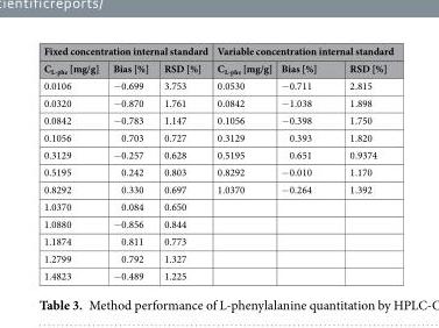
<table><thead><tr><td colspan="3">Fixed concentration internal standard</td><td colspan="3">Variable concentration internal standard</td></tr><tr><td>C<sub>L-phe</sub> [mg/g]</td><td>Bias [%]</td><td>RSD [%]</td><td>C<sub>L-phe</sub> [mg/g]</td><td>Bias [%]</td><td>RSD [%]</td></tr></thead><tbody><tr><td>0.0106</td><td>−0.699</td><td>3.753</td><td>0.0530</td><td>−0.711</td><td>2.815</td></tr><tr><td>0.0320</td><td>−0.870</td><td>1.761</td><td>0.0842</td><td>−1.038</td><td>1.898</td></tr><tr><td>0.0842</td><td>−0.783</td><td>1.147</td><td>0.1056</td><td>−0.398</td><td>1.750</td></tr><tr><td>0.1056</td><td>0.703</td><td>0.727</td><td>0.3129</td><td>0.393</td><td>1.820</td></tr><tr><td>0.3129</td><td>−0.257</td><td>0.628</td><td>0.5195</td><td>0.651</td><td>0.9374</td></tr><tr><td>0.5195</td><td>0.242</td><td>0.803</td><td>0.8292</td><td>−0.010</td><td>1.170</td></tr><tr><td>0.8292</td><td>0.330</td><td>0.697</td><td>1.0370</td><td>−0.264</td><td>1.392</td></tr><tr><td>1.0370</td><td>0.084</td><td>0.650</td><td></td><td></td><td></td></tr><tr><td>1.0880</td><td>−0.856</td><td>0.844</td><td></td><td></td><td></td></tr><tr><td>1.1874</td><td>0.811</td><td>0.773</td><td></td><td></td><td></td></tr><tr><td>1.2799</td><td>0.792</td><td>1.327</td><td></td><td></td><td></td></tr><tr><td>1.4823</td><td>−0.489</td><td>1.225</td><td></td><td></td><td></td></tr></tbody></table>